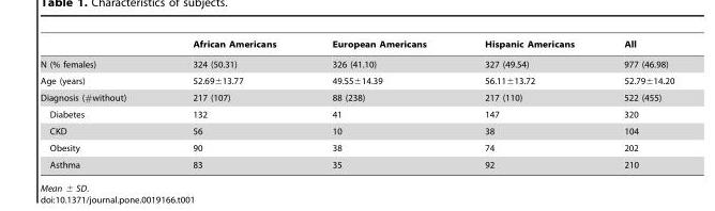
<table><thead><tr><td></td><td>African Americans</td><td>European Americans</td><td>Hispanic Americans</td><td>All</td></tr></thead><tbody><tr><td>N (% females)</td><td>324 (50.31)</td><td>326 (41.10)</td><td>327 (49.54)</td><td>977 (46.98)</td></tr><tr><td>Age (years)</td><td>52.69±13.77</td><td>49.55±14.39</td><td>56.11±13.72</td><td>52.79±14.20</td></tr><tr><td>Diagnosis (#without)</td><td>217 (107)</td><td>88 (238)</td><td>217 (110)</td><td>522 (455)</td></tr><tr><td>Diabetes</td><td>132</td><td>41</td><td>147</td><td>320</td></tr><tr><td>CKD</td><td>56</td><td>10</td><td>38</td><td>104</td></tr><tr><td>Obesity</td><td>90</td><td>38</td><td>74</td><td>202</td></tr><tr><td>Asthma</td><td>83</td><td>35</td><td>92</td><td>210</td></tr></tbody></table>